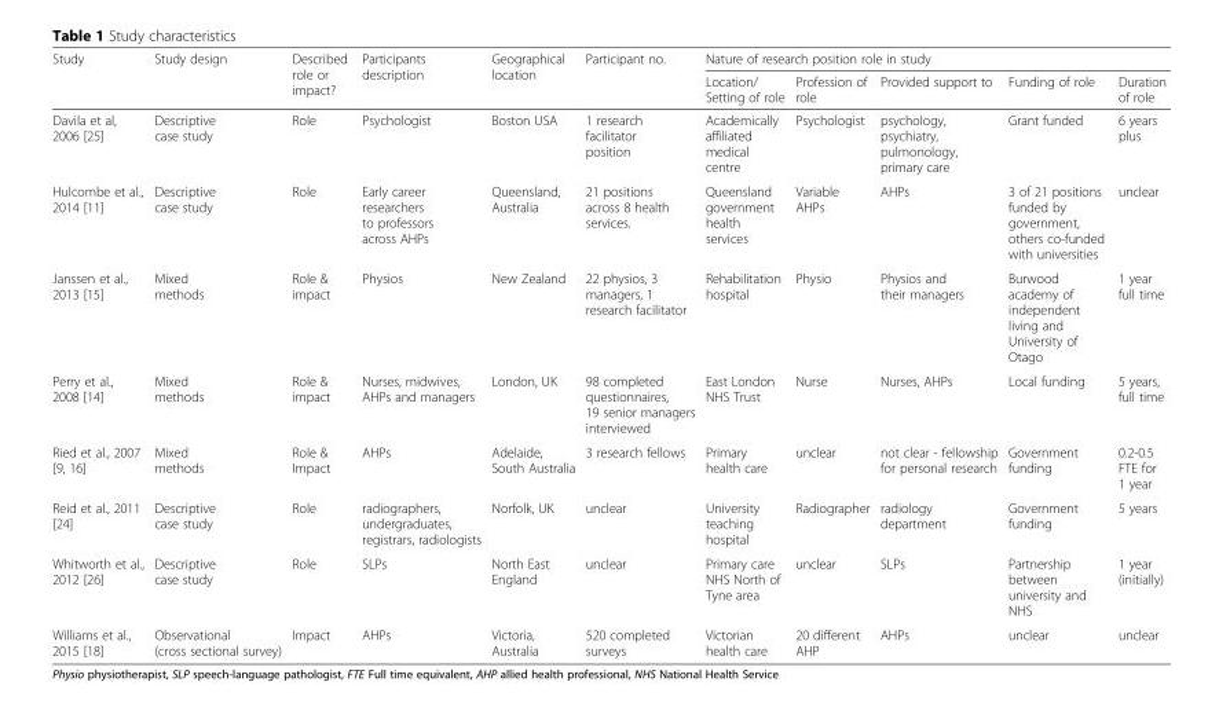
<table><thead><tr><td rowspan="2">Study</td><td rowspan="2">Study design</td><td rowspan="2">Described role or impact?</td><td rowspan="2">Participants description</td><td rowspan="2">Geographical location</td><td rowspan="2">Participant no.</td><td colspan="5">Nature of research position role in study</td></tr><tr><td>Location/ Setting of role</td><td>Profession of role</td><td>Provided support to</td><td>Funding of role</td><td>Duration of role</td></tr></thead><tbody><tr><td>Davila et al, 2006 [25]</td><td>Descriptive case study</td><td>Role</td><td>Psychologist</td><td>Boston USA</td><td>1 research facilitator position</td><td>Academically affiliated medical centre</td><td>Psychologist</td><td>psychology, psychiatry, pulmonology, primary care</td><td>Grant funded</td><td>6 years plus</td></tr><tr><td>Hulcombe et al., 2014 [11]</td><td>Descriptive case study</td><td>Role</td><td>Early career researchers to professors across AHPs</td><td>Queensland, Australia</td><td>21 positions across 8 health services.</td><td>Queensland government health services</td><td>Variable AHPs</td><td>AHPs</td><td>3 of 21 positions funded by government, others co-funded with universities</td><td>unclear</td></tr><tr><td>Janssen et al., 2013 [15]</td><td>Mixed methods</td><td>Role &amp; impact</td><td>Physios</td><td>New Zealand</td><td>22 physios, 3 managers, 1 research facilitator</td><td>Rehabilitation hospital</td><td>Physio</td><td>Physios and their managers</td><td>Burwood academy of independent living and University of Otago</td><td>1 year full time</td></tr><tr><td>Perry et al., 2008 [14]</td><td>Mixed methods</td><td>Role &amp; impact</td><td>Nurses, midwives, AHPs and managers</td><td>London, UK</td><td>98 completed questionnaires, 19 senior managers interviewed</td><td>East London NHS Trust</td><td>Nurse</td><td>Nurses, AHPs</td><td>Local funding</td><td>5 years, full time</td></tr><tr><td>Ried et al., 2007 [9, 16]</td><td>Mixed methods</td><td>Role &amp; Impact</td><td>AHPs</td><td>Adelaide, South Australia</td><td>3 research fellows</td><td>Primary health care</td><td>unclear</td><td>not clear - fellowship for personal research</td><td>Government funding</td><td>0.2-0.5 FTE for 1 year</td></tr><tr><td>Reid et al., 2011 [24]</td><td>Descriptive case study</td><td>Role</td><td>radiographers, undergraduates, registrars, radiologists</td><td>Norfolk, UK</td><td>unclear</td><td>University teaching hospital</td><td>Radiographer</td><td>radiology department</td><td>Government funding</td><td>5 years</td></tr><tr><td>Whitworth et al., 2012 [26]</td><td>Descriptive case study</td><td>Role</td><td>SLPs</td><td>North East England</td><td>unclear</td><td>Primary care NHS North of Tyne area</td><td>unclear</td><td>SLPs</td><td>Partnership between university and NHS</td><td>1 year (initially)</td></tr><tr><td>Williams et al., 2015 [18]</td><td>Observational (cross sectional survey)</td><td>Impact</td><td>AHPs</td><td>Victoria, Australia</td><td>520 completed surveys</td><td>Victorian health care</td><td>20 different AHP</td><td>AHPs</td><td>unclear</td><td>unclear</td></tr></tbody></table>